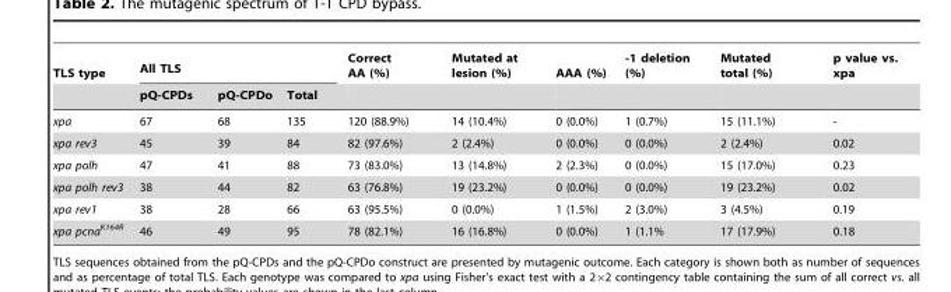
<table><thead><tr><td rowspan="2">TLS type</td><td colspan="3">All TLS</td><td rowspan="2">Correct AA (%)</td><td rowspan="2">Mutated at lesion (%)</td><td rowspan="2">AAA (%)</td><td rowspan="2">-1 deletion (%)</td><td rowspan="2">Mutated total (%)</td><td rowspan="2">p value vs. xpa</td></tr><tr><td>pQ-CPDs</td><td>pQ-CPDo</td><td>Total</td></tr></thead><tbody><tr><td>xpa</td><td>67</td><td>68</td><td>135</td><td>120 (88.9%)</td><td>14 (10.4%)</td><td>0 (0.0%)</td><td>1 (0.7%)</td><td>15 (11.1%)</td><td>-</td></tr><tr><td>xpa rev3</td><td>45</td><td>39</td><td>84</td><td>82 (97.6%)</td><td>2 (2.4%)</td><td>0 (0.0%)</td><td>0 (0.0%)</td><td>2 (2.4%)</td><td>0.02</td></tr><tr><td>xpa polh</td><td>47</td><td>41</td><td>88</td><td>73 (83.0%)</td><td>13 (14.8%)</td><td>2 (2.3%)</td><td>0 (0.0%)</td><td>15 (17.0%)</td><td>0.23</td></tr><tr><td>xpa polh rev3</td><td>38</td><td>44</td><td>82</td><td>63 (76.8%)</td><td>19 (23.2%)</td><td>0 (0.0%)</td><td>0 (0.0%)</td><td>19 (23.2%)</td><td>0.02</td></tr><tr><td>xpa rev1</td><td>38</td><td>28</td><td>66</td><td>63 (95.5%)</td><td>0 (0.0%)</td><td>1 (1.5%)</td><td>2 (3.0%)</td><td>3 (4.5%)</td><td>0.19</td></tr><tr><td>xpa pcna<sup>K164R</sup></td><td>46</td><td>49</td><td>95</td><td>78 (82.1%)</td><td>16 (16.8%)</td><td>0 (0.0%)</td><td>1 (1.1%</td><td>17 (17.9%)</td><td>0.18</td></tr></tbody></table>